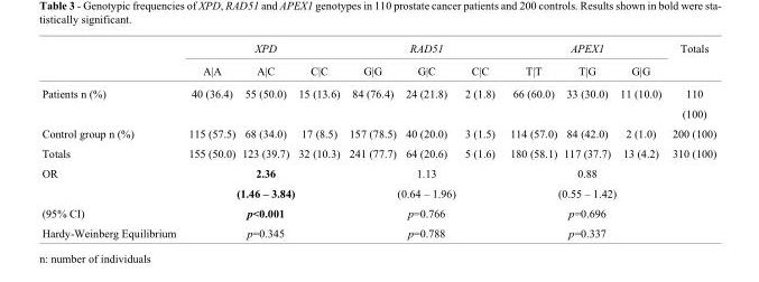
<table><thead><tr><td rowspan="2"></td><td colspan="3">XPD</td><td colspan="3">RAD51</td><td colspan="3">APEX1</td><td rowspan="2">Totals</td></tr><tr><td>A|A</td><td>A|C</td><td>C|C</td><td>G|G</td><td>G|C</td><td>C|C</td><td>T|T</td><td>T|G</td><td>G|G</td></tr></thead><tbody><tr><td rowspan="2">Patients n (%)</td><td>40 (36.4)</td><td>55 (50.0)</td><td>15 (13.6)</td><td>84 (76.4)</td><td>24 (21.8)</td><td>2 (1.8)</td><td>66 (60.0)</td><td>33 (30.0)</td><td>11 (10.0)</td><td>110</td></tr><tr><td></td><td></td><td></td><td></td><td></td><td></td><td></td><td></td><td></td><td>(100)</td></tr><tr><td>Control group n (%)</td><td>115 (57.5)</td><td>68 (34.0)</td><td>17 (8.5)</td><td>157 (78.5)</td><td>40 (20.0)</td><td>3 (1.5)</td><td>114 (57.0)</td><td>84 (42.0)</td><td>2 (1.0)</td><td>200 (100)</td></tr><tr><td>Totals</td><td>155 (50.0)</td><td>123 (39.7)</td><td>32 (10.3)</td><td>241 (77.7)</td><td>64 (20.6)</td><td>5 (1.6)</td><td>180 (58.1)</td><td>117 (37.7)</td><td>13 (4.2)</td><td>310 (100)</td></tr><tr><td rowspan="2">OR</td><td></td><td>2.36</td><td></td><td></td><td>1.13</td><td></td><td></td><td>0.88</td><td></td><td></td></tr><tr><td></td><td>(1.46 – 3.84)</td><td></td><td></td><td>(0.64 – 1.96)</td><td></td><td></td><td>(0.55 – 1.42)</td><td></td><td></td></tr><tr><td>(95% CI)</td><td></td><td>p&lt;0.001</td><td></td><td></td><td>p=0.766</td><td></td><td></td><td>p=0.696</td><td></td><td></td></tr><tr><td>Hardy-Weinberg Equilibrium</td><td></td><td>p=0.345</td><td></td><td></td><td>p=0.788</td><td></td><td></td><td>p=0.337</td><td></td><td></td></tr></tbody></table>